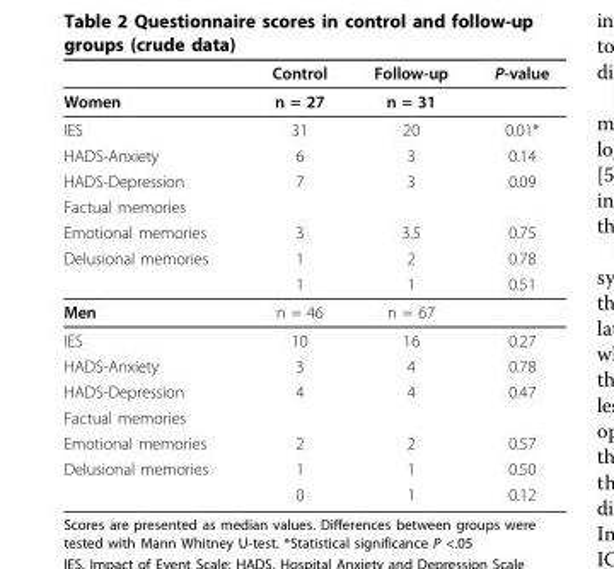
<table><thead><tr><td></td><td>Control</td><td>Follow-up</td><td>P-value</td></tr></thead><tbody><tr><td>Women</td><td>n = 27</td><td>n = 31</td><td></td></tr><tr><td>IES</td><td>31</td><td>20</td><td>0.01*</td></tr><tr><td>HADS-Anxiety</td><td>6</td><td>3</td><td>0.14</td></tr><tr><td>HADS-Depression</td><td>7</td><td>3</td><td>0.09</td></tr><tr><td colspan="4">Factual memories</td></tr><tr><td>Emotional memories</td><td>3</td><td>3.5</td><td>0.75</td></tr><tr><td rowspan="2">Delusional memories</td><td>1</td><td>2</td><td>0.78</td></tr><tr><td>1</td><td>1</td><td>0.51</td></tr><tr><td>Men</td><td>n = 46</td><td>n = 67</td><td></td></tr><tr><td>IES</td><td>10</td><td>16</td><td>0.27</td></tr><tr><td>HADS-Anxiety</td><td>3</td><td>4</td><td>0.78</td></tr><tr><td>HADS-Depression</td><td>4</td><td>4</td><td>0.47</td></tr><tr><td colspan="4">Factual memories</td></tr><tr><td>Emotional memories</td><td>2</td><td>2</td><td>0.57</td></tr><tr><td rowspan="2">Delusional memories</td><td>1</td><td>1</td><td>0.50</td></tr><tr><td>0</td><td>1</td><td>0.12</td></tr></tbody></table>